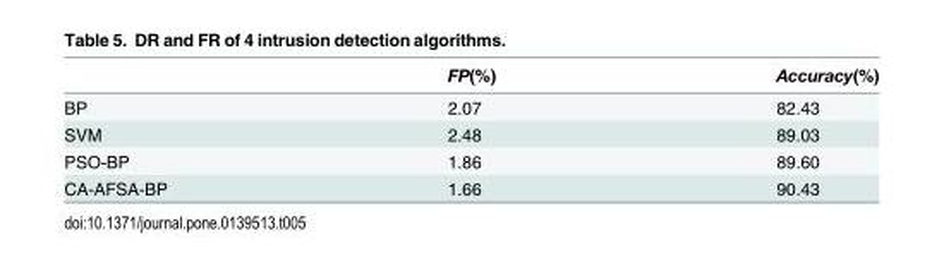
<table><thead><tr><td></td><td>FP(%)</td><td>Accuracy(%)</td></tr></thead><tbody><tr><td>BP</td><td>2.07</td><td>82.43</td></tr><tr><td>SVM</td><td>2.48</td><td>89.03</td></tr><tr><td>PSO-BP</td><td>1.86</td><td>89.60</td></tr><tr><td>CA-AFSA-BP</td><td>1.66</td><td>90.43</td></tr></tbody></table>